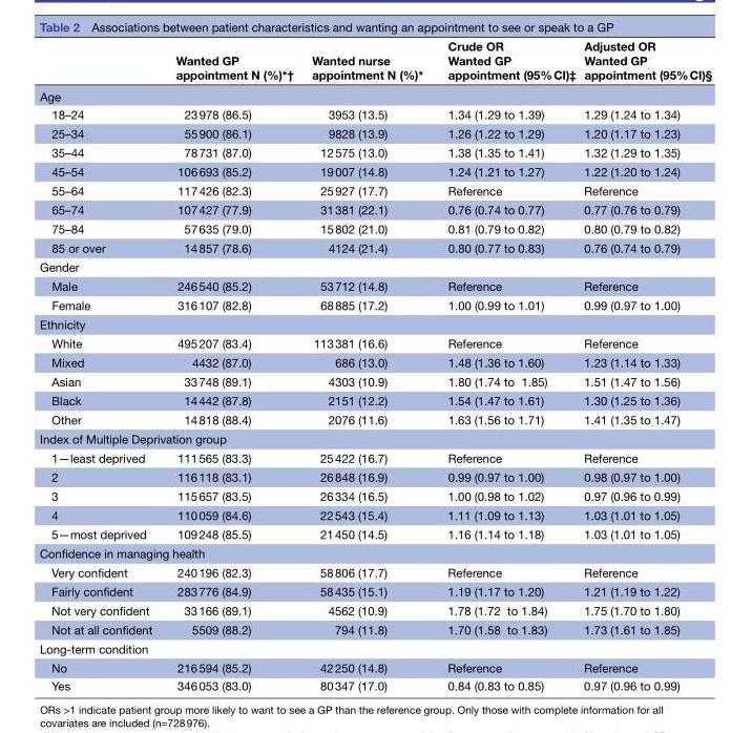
<table><thead><tr><td></td><td>Wanted GP appointment N (%)*†</td><td>Wanted nurse appointment N (%)*</td><td>Crude OR Wanted GP appointment (95% CI)‡</td><td>Adjusted OR Wanted GP appointment (95% CI)§</td></tr></thead><tbody><tr><td colspan="5">Age</td></tr><tr><td>18–24</td><td>23 978 (86.5)</td><td>3953 (13.5)</td><td>1.34 (1.29 to 1.39)</td><td>1.29 (1.24 to 1.34)</td></tr><tr><td>25–34</td><td>55 900 (86.1)</td><td>9828 (13.9)</td><td>1.26 (1.22 to 1.29)</td><td>1.20 (1.17 to 1.23)</td></tr><tr><td>35–44</td><td>78 731 (87.0)</td><td>12 575 (13.0)</td><td>1.38 (1.35 to 1.41)</td><td>1.32 (1.29 to 1.35)</td></tr><tr><td>45–54</td><td>106 693 (85.2)</td><td>19 007 (14.8)</td><td>1.24 (1.21 to 1.27)</td><td>1.22 (1.20 to 1.24)</td></tr><tr><td>55–64</td><td>117 426 (82.3)</td><td>25 927 (17.7)</td><td>Reference</td><td>Reference</td></tr><tr><td>65–74</td><td>107 427 (77.9)</td><td>31 381 (22.1)</td><td>0.76 (0.74 to 0.77)</td><td>0.77 (0.76 to 0.79)</td></tr><tr><td>75–84</td><td>57 635 (79.0)</td><td>15 802 (21.0)</td><td>0.81 (0.79 to 0.82)</td><td>0.80 (0.79 to 0.82)</td></tr><tr><td>85 or over</td><td>14 857 (78.6)</td><td>4124 (21.4)</td><td>0.80 (0.77 to 0.83)</td><td>0.76 (0.74 to 0.79)</td></tr><tr><td colspan="5">Gender</td></tr><tr><td>Male</td><td>246 540 (85.2)</td><td>53 712 (14.8)</td><td>Reference</td><td>Reference</td></tr><tr><td>Female</td><td>316 107 (82.8)</td><td>68 885 (17.2)</td><td>1.00 (0.99 to 1.01)</td><td>0.99 (0.97 to 1.00)</td></tr><tr><td colspan="5">Ethnicity</td></tr><tr><td>White</td><td>495 207 (83.4)</td><td>113 381 (16.6)</td><td>Reference</td><td>Reference</td></tr><tr><td>Mixed</td><td>4432 (87.0)</td><td>686 (13.0)</td><td>1.48 (1.36 to 1.60)</td><td>1.23 (1.14 to 1.33)</td></tr><tr><td>Asian</td><td>33 748 (89.1)</td><td>4303 (10.9)</td><td>1.80 (1.74 to 1.85)</td><td>1.51 (1.47 to 1.56)</td></tr><tr><td>Black</td><td>14 442 (87.8)</td><td>2151 (12.2)</td><td>1.54 (1.47 to 1.61)</td><td>1.30 (1.25 to 1.36)</td></tr><tr><td>Other</td><td>14 818 (88.4)</td><td>2076 (11.6)</td><td>1.63 (1.56 to 1.71)</td><td>1.41 (1.35 to 1.47)</td></tr><tr><td colspan="5">Index of Multiple Deprivation group</td></tr><tr><td>1—least deprived</td><td>111 565 (83.3)</td><td>25 422 (16.7)</td><td>Reference</td><td>Reference</td></tr><tr><td>2</td><td>116 118 (83.1)</td><td>26 848 (16.9)</td><td>0.99 (0.97 to 1.00)</td><td>0.98 (0.97 to 1.00)</td></tr><tr><td>3</td><td>115 657 (83.5)</td><td>26 334 (16.5)</td><td>1.00 (0.98 to 1.02)</td><td>0.97 (0.96 to 0.99)</td></tr><tr><td>4</td><td>110 059 (84.6)</td><td>22 543 (15.4)</td><td>1.11 (1.09 to 1.13)</td><td>1.03 (1.01 to 1.05)</td></tr><tr><td>5—most deprived</td><td>109 248 (85.5)</td><td>21 450 (14.5)</td><td>1.16 (1.14 to 1.18)</td><td>1.03 (1.01 to 1.05)</td></tr><tr><td colspan="5">Confidence in managing health</td></tr><tr><td>Very confident</td><td>240 196 (82.3)</td><td>58 806 (17.7)</td><td>Reference</td><td>Reference</td></tr><tr><td>Fairly confident</td><td>283 776 (84.9)</td><td>58 435 (15.1)</td><td>1.19 (1.17 to 1.20)</td><td>1.21 (1.19 to 1.22)</td></tr><tr><td>Not very confident</td><td>33 166 (89.1)</td><td>4562 (10.9)</td><td>1.78 (1.72 to 1.84)</td><td>1.75 (1.70 to 1.80)</td></tr><tr><td>Not at all confident</td><td>5509 (88.2)</td><td>794 (11.8)</td><td>1.70 (1.58 to 1.83)</td><td>1.73 (1.61 to 1.85)</td></tr><tr><td colspan="5">Long-term condition</td></tr><tr><td>No</td><td>216 594 (85.2)</td><td>42 250 (14.8)</td><td>Reference</td><td>Reference</td></tr><tr><td>Yes</td><td>346 053 (83.0)</td><td>80 347 (17.0)</td><td>0.84 (0.83 to 0.85)</td><td>0.97 (0.96 to 0.99)</td></tr></tbody></table>